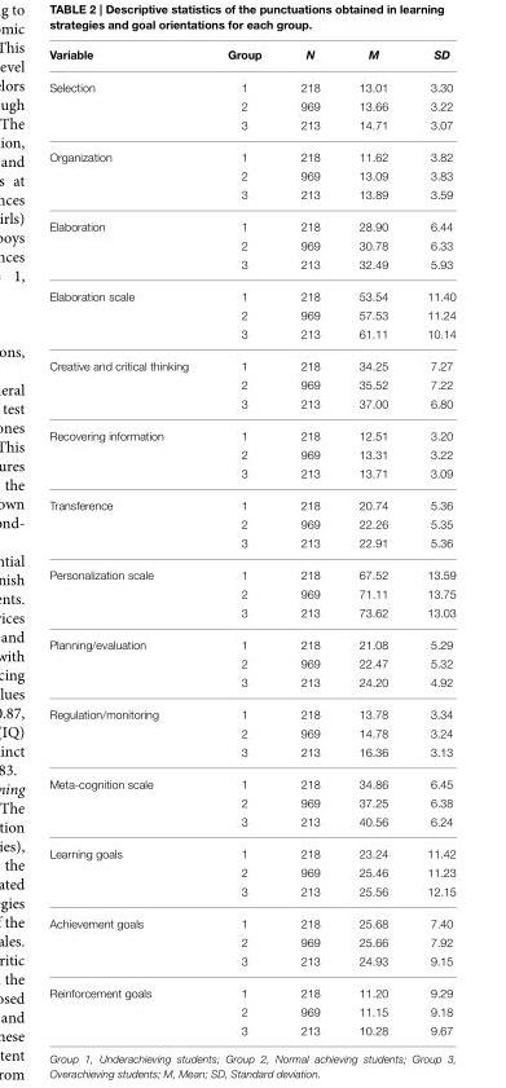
<table><thead><tr><td>Variable</td><td>Group</td><td>N</td><td>M</td><td>SD</td></tr></thead><tbody><tr><td rowspan="3">Selection</td><td>1</td><td>218</td><td>13.01</td><td>3.30</td></tr><tr><td>2</td><td>969</td><td>13.66</td><td>3.22</td></tr><tr><td>3</td><td>213</td><td>14.71</td><td>3.07</td></tr><tr><td rowspan="3">Organization</td><td>1</td><td>218</td><td>11.62</td><td>3.82</td></tr><tr><td>2</td><td>969</td><td>13.09</td><td>3.83</td></tr><tr><td>3</td><td>213</td><td>13.89</td><td>3.59</td></tr><tr><td rowspan="3">Elaboration</td><td>1</td><td>218</td><td>28.90</td><td>6.44</td></tr><tr><td>2</td><td>969</td><td>30.78</td><td>6.33</td></tr><tr><td>3</td><td>213</td><td>32.49</td><td>5.93</td></tr><tr><td rowspan="3">Elaboration scale</td><td>1</td><td>218</td><td>53.54</td><td>11.40</td></tr><tr><td>2</td><td>969</td><td>57.53</td><td>11.24</td></tr><tr><td>3</td><td>213</td><td>61.11</td><td>10.14</td></tr><tr><td rowspan="3">Creative and critical thinking</td><td>1</td><td>218</td><td>34.25</td><td>7.27</td></tr><tr><td>2</td><td>969</td><td>35.52</td><td>7.22</td></tr><tr><td>3</td><td>213</td><td>37.00</td><td>6.80</td></tr><tr><td rowspan="3">Recovering information</td><td>1</td><td>218</td><td>12.51</td><td>3.20</td></tr><tr><td>2</td><td>969</td><td>13.31</td><td>3.22</td></tr><tr><td>3</td><td>213</td><td>13.71</td><td>3.09</td></tr><tr><td rowspan="3">Transference</td><td>1</td><td>218</td><td>20.74</td><td>5.36</td></tr><tr><td>2</td><td>969</td><td>22.26</td><td>5.35</td></tr><tr><td>3</td><td>213</td><td>22.91</td><td>5.36</td></tr><tr><td rowspan="3">Personalization scale</td><td>1</td><td>218</td><td>67.52</td><td>13.59</td></tr><tr><td>2</td><td>969</td><td>71.11</td><td>13.75</td></tr><tr><td>3</td><td>213</td><td>73.62</td><td>13.03</td></tr><tr><td rowspan="3">Planning/evaluation</td><td>1</td><td>218</td><td>21.08</td><td>5.29</td></tr><tr><td>2</td><td>969</td><td>22.47</td><td>5.32</td></tr><tr><td>3</td><td>213</td><td>24.20</td><td>4.92</td></tr><tr><td rowspan="3">Regulation/monitoring</td><td>1</td><td>218</td><td>13.78</td><td>3.34</td></tr><tr><td>2</td><td>969</td><td>14.78</td><td>3.24</td></tr><tr><td>3</td><td>213</td><td>16.36</td><td>3.13</td></tr><tr><td rowspan="3">Meta-cognition scale</td><td>1</td><td>218</td><td>34.86</td><td>6.45</td></tr><tr><td>2</td><td>969</td><td>37.25</td><td>6.38</td></tr><tr><td>3</td><td>213</td><td>40.56</td><td>6.24</td></tr><tr><td rowspan="3">Learning goals</td><td>1</td><td>218</td><td>23.24</td><td>11.42</td></tr><tr><td>2</td><td>969</td><td>25.46</td><td>11.23</td></tr><tr><td>3</td><td>213</td><td>25.56</td><td>12.15</td></tr><tr><td rowspan="3">Achievement goals</td><td>1</td><td>218</td><td>25.68</td><td>7.40</td></tr><tr><td>2</td><td>969</td><td>25.66</td><td>7.92</td></tr><tr><td>3</td><td>213</td><td>24.93</td><td>9.15</td></tr><tr><td rowspan="3">Reinforcement goals</td><td>1</td><td>218</td><td>11.20</td><td>9.29</td></tr><tr><td>2</td><td>969</td><td>11.15</td><td>9.18</td></tr><tr><td>3</td><td>213</td><td>10.28</td><td>9.67</td></tr></tbody></table>